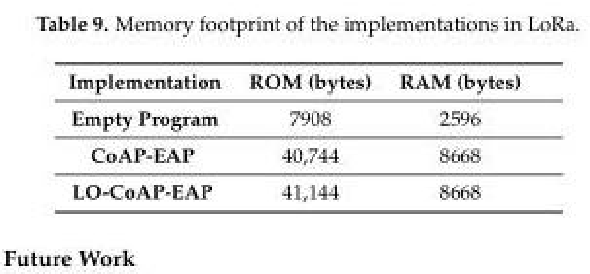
<table><thead><tr><td>Implementation</td><td>ROM (bytes)</td><td>RAM (bytes)</td></tr></thead><tbody><tr><td>Empty Program</td><td>7908</td><td>2596</td></tr><tr><td>CoAP-EAP</td><td>40,744</td><td>8668</td></tr><tr><td>LO-CoAP-EAP</td><td>41,144</td><td>8668</td></tr></tbody></table>